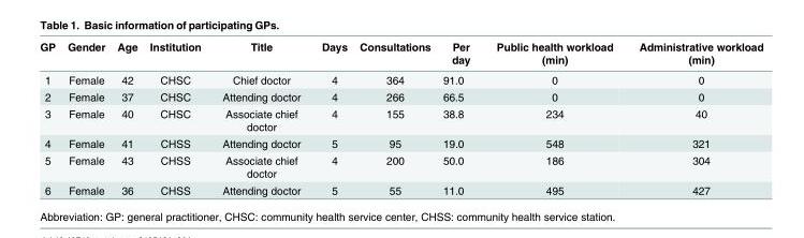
<table><thead><tr><td>GP</td><td>Gender</td><td>Age</td><td>Institution</td><td>Title</td><td>Days</td><td>Consultations</td><td>Per day</td><td>Public health workload (min)</td><td>Administrative workload (min)</td></tr></thead><tbody><tr><td>1</td><td>Female</td><td>42</td><td>CHSC</td><td>Chief doctor</td><td>4</td><td>364</td><td>91.0</td><td>0</td><td>0</td></tr><tr><td>2</td><td>Female</td><td>37</td><td>CHSC</td><td>Attending doctor</td><td>4</td><td>266</td><td>66.5</td><td>0</td><td>0</td></tr><tr><td>3</td><td>Female</td><td>40</td><td>CHSC</td><td>Associate chief doctor</td><td>4</td><td>155</td><td>38.8</td><td>234</td><td>40</td></tr><tr><td>4</td><td>Female</td><td>41</td><td>CHSS</td><td>Attending doctor</td><td>5</td><td>95</td><td>19.0</td><td>548</td><td>321</td></tr><tr><td>5</td><td>Female</td><td>43</td><td>CHSS</td><td>Associate chief doctor</td><td>4</td><td>200</td><td>50.0</td><td>186</td><td>304</td></tr><tr><td>6</td><td>Female</td><td>36</td><td>CHSS</td><td>Attending doctor</td><td>5</td><td>55</td><td>11.0</td><td>495</td><td>427</td></tr></tbody></table>